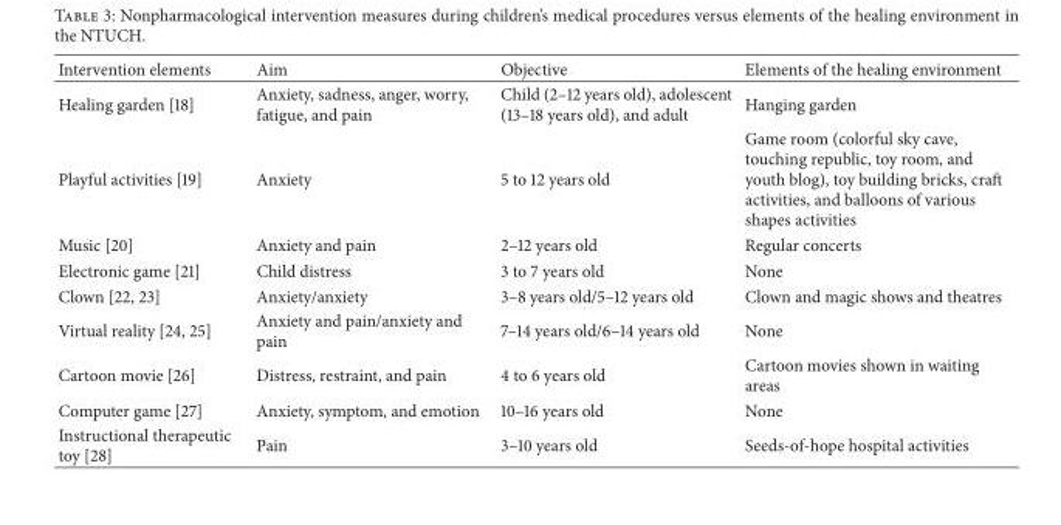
<table><thead><tr><td>Intervention elements</td><td>Aim</td><td>Objective</td><td>Elements of the healing environment</td></tr></thead><tbody><tr><td>Healing garden [18]</td><td>Anxiety, sadness, anger, worry, fatigue, and pain</td><td>Child (2–12 years old), adolescent (13–18 years old), and adult</td><td>Hanging garden</td></tr><tr><td>Playful activities [19]</td><td>Anxiety</td><td>5 to 12 years old</td><td>Game room (colorful sky cave, touching republic, toy room, and youth blog), toy building bricks, craft activities, and balloons of various shapes activities</td></tr><tr><td>Music [20]</td><td>Anxiety and pain</td><td>2–12 years old</td><td>Regular concerts</td></tr><tr><td>Electronic game [21]</td><td>Child distress</td><td>3 to 7 years old</td><td>None</td></tr><tr><td>Clown [22, 23]</td><td>Anxiety/anxiety</td><td>3–8 years old/5–12 years old</td><td>Clown and magic shows and theatres</td></tr><tr><td>Virtual reality [24, 25]</td><td>Anxiety and pain/anxiety and pain</td><td>7–14 years old/6–14 years old</td><td>None</td></tr><tr><td>Cartoon movie [26]</td><td>Distress, restraint, and pain</td><td>4 to 6 years old</td><td>Cartoon movies shown in waiting areas</td></tr><tr><td>Computer game [27]</td><td>Anxiety, symptom, and emotion</td><td>10–16 years old</td><td>None</td></tr><tr><td>Instructional therapeutic toy [28]</td><td>Pain</td><td>3–10 years old</td><td>Seeds-of-hope hospital activities</td></tr></tbody></table>